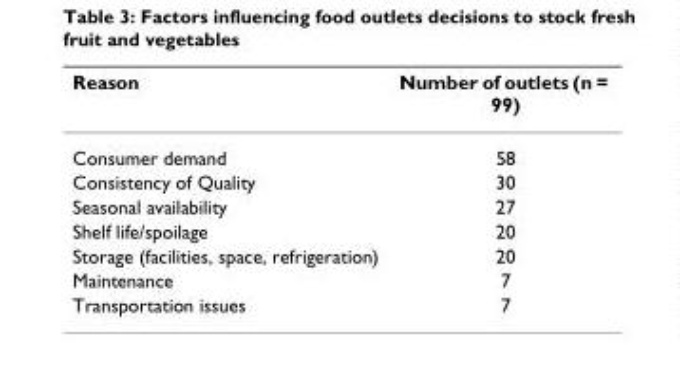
<table><thead><tr><td>Reason</td><td>Number of outlets (n = 99)</td></tr></thead><tbody><tr><td>Consumer demand</td><td>58</td></tr><tr><td>Consistency of Quality</td><td>30</td></tr><tr><td>Seasonal availability</td><td>27</td></tr><tr><td>Shelf life/spoilage</td><td>20</td></tr><tr><td>Storage (facilities, space, refrigeration)</td><td>20</td></tr><tr><td>Maintenance</td><td>7</td></tr><tr><td>Transportation issues</td><td>7</td></tr></tbody></table>